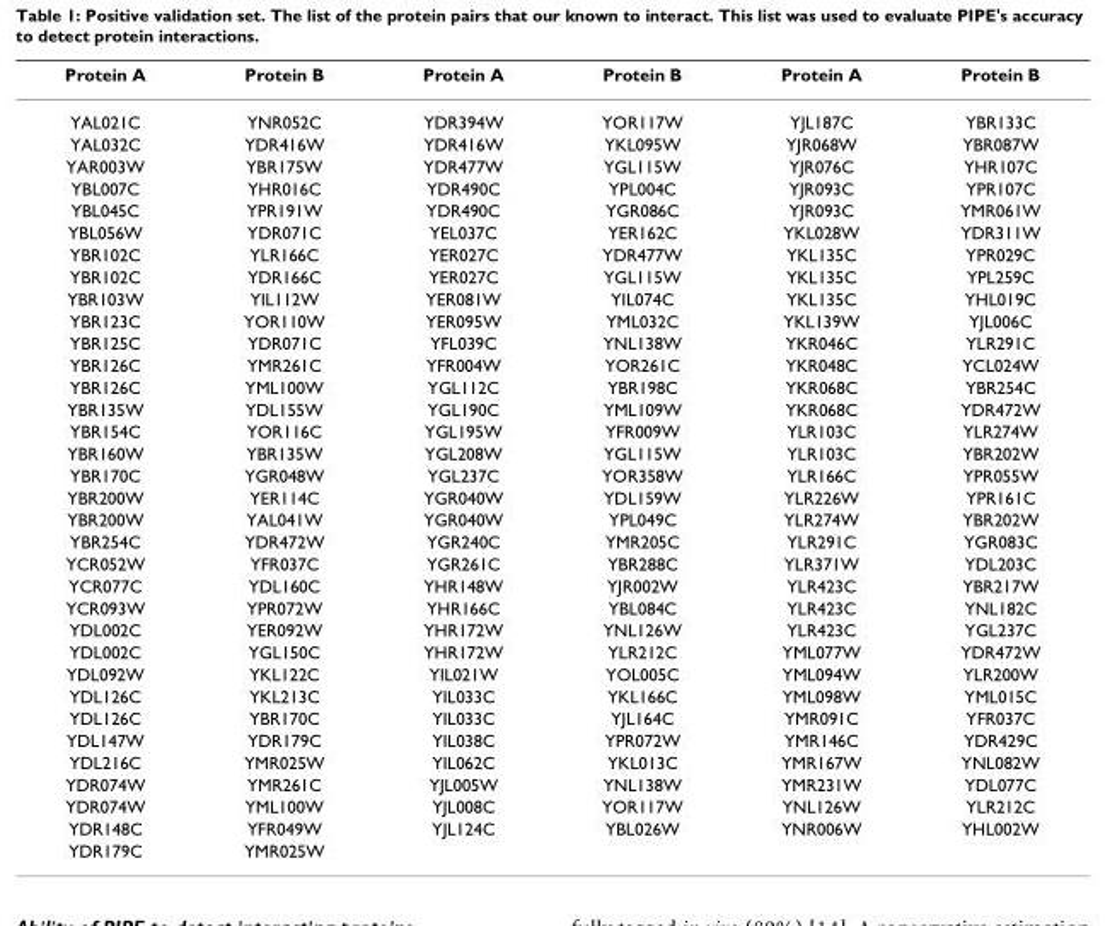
<table><thead><tr><td>Protein A</td><td>Protein B</td><td>Protein A</td><td>Protein B</td><td>Protein A</td><td>Protein B</td></tr></thead><tbody><tr><td>YAL021C</td><td>YNR052C</td><td>YDR394W</td><td>YOR117W</td><td>YJL187C</td><td>YBR133C</td></tr><tr><td>YAL032C</td><td>YDR416W</td><td>YDR416W</td><td>YKL095W</td><td>YJR068W</td><td>YBR087W</td></tr><tr><td>YAR003W</td><td>YBR175W</td><td>YDR477W</td><td>YGL115W</td><td>YJR076C</td><td>YHR107C</td></tr><tr><td>YBL007C</td><td>YHR016C</td><td>YDR490C</td><td>YPL004C</td><td>YJR093C</td><td>YPR107C</td></tr><tr><td>YBL045C</td><td>YPR191W</td><td>YDR490C</td><td>YGR086C</td><td>YJR093C</td><td>YMR061W</td></tr><tr><td>YBL056W</td><td>YDR071C</td><td>YEL037C</td><td>YER162C</td><td>YKL028W</td><td>YDR311W</td></tr><tr><td>YBR102C</td><td>YLR166C</td><td>YER027C</td><td>YDR477W</td><td>YKL135C</td><td>YPR029C</td></tr><tr><td>YBR102C</td><td>YDR166C</td><td>YER027C</td><td>YGL115W</td><td>YKL135C</td><td>YPL259C</td></tr><tr><td>YBR103W</td><td>YIL112W</td><td>YER081W</td><td>YIL074C</td><td>YKL135C</td><td>YHL019C</td></tr><tr><td>YBR123C</td><td>YOR110W</td><td>YER095W</td><td>YML032C</td><td>YKL139W</td><td>YJL006C</td></tr><tr><td>YBR125C</td><td>YDR071C</td><td>YFL039C</td><td>YNL138W</td><td>YKR046C</td><td>YLR291C</td></tr><tr><td>YBR126C</td><td>YMR261C</td><td>YFR004W</td><td>YOR261C</td><td>YKR048C</td><td>YCL024W</td></tr><tr><td>YBR126C</td><td>YML100W</td><td>YGL112C</td><td>YBR198C</td><td>YKR068C</td><td>YBR254C</td></tr><tr><td>YBR135W</td><td>YDL155W</td><td>YGL190C</td><td>YML109W</td><td>YKR068C</td><td>YDR472W</td></tr><tr><td>YBR154C</td><td>YOR116C</td><td>YGL195W</td><td>YFR009W</td><td>YLR103C</td><td>YLR274W</td></tr><tr><td>YBR160W</td><td>YBR135W</td><td>YGL208W</td><td>YGL115W</td><td>YLR103C</td><td>YBR202W</td></tr><tr><td>YBR170C</td><td>YGR048W</td><td>YGL237C</td><td>YOR358W</td><td>YLR166C</td><td>YPR055W</td></tr><tr><td>YBR200W</td><td>YER114C</td><td>YGR040W</td><td>YDL159W</td><td>YLR226W</td><td>YPR161C</td></tr><tr><td>YBR200W</td><td>YAL041W</td><td>YGR040W</td><td>YPL049C</td><td>YLR274W</td><td>YBR202W</td></tr><tr><td>YBR254C</td><td>YDR472W</td><td>YGR240C</td><td>YMR205C</td><td>YLR291C</td><td>YGR083C</td></tr><tr><td>YCR052W</td><td>YFR037C</td><td>YGR261C</td><td>YBR288C</td><td>YLR371W</td><td>YDL203C</td></tr><tr><td>YCR077C</td><td>YDL160C</td><td>YHR148W</td><td>YJR002W</td><td>YLR423C</td><td>YBR217W</td></tr><tr><td>YCR093W</td><td>YPR072W</td><td>YHR166C</td><td>YBL084C</td><td>YLR423C</td><td>YNL182C</td></tr><tr><td>YDL002C</td><td>YER092W</td><td>YHR172W</td><td>YNL126W</td><td>YLR423C</td><td>YGL237C</td></tr><tr><td>YDL002C</td><td>YGL150C</td><td>YHR172W</td><td>YLR212C</td><td>YML077W</td><td>YDR472W</td></tr><tr><td>YDL092W</td><td>YKL122C</td><td>YIL021W</td><td>YOL005C</td><td>YML094W</td><td>YLR200W</td></tr><tr><td>YDL126C</td><td>YKL213C</td><td>YIL033C</td><td>YKL166C</td><td>YML098W</td><td>YML015C</td></tr><tr><td>YDL126C</td><td>YBR170C</td><td>YIL033C</td><td>YJL164C</td><td>YMR091C</td><td>YFR037C</td></tr><tr><td>YDL147W</td><td>YDR179C</td><td>YIL038C</td><td>YPR072W</td><td>YMR146C</td><td>YDR429C</td></tr><tr><td>YDL216C</td><td>YMR025W</td><td>YIL062C</td><td>YKL013C</td><td>YMR167W</td><td>YNL082W</td></tr><tr><td>YDR074W</td><td>YMR261C</td><td>YJL005W</td><td>YNL138W</td><td>YMR231W</td><td>YDL077C</td></tr><tr><td>YDR074W</td><td>YML100W</td><td>YJL008C</td><td>YOR117W</td><td>YNL126W</td><td>YLR212C</td></tr><tr><td>YDR148C</td><td>YFR049W</td><td>YJL124C</td><td>YBL026W</td><td>YNR006W</td><td>YHL002W</td></tr><tr><td>YDR179C</td><td>YMR025W</td><td></td><td></td><td></td><td></td></tr></tbody></table>